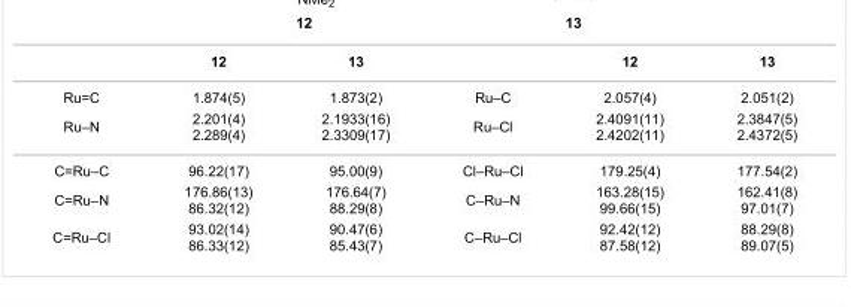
<table><thead><tr><td></td><td>12</td><td>13</td><td></td><td>12</td><td>13</td></tr></thead><tbody><tr><td>Ru=C</td><td>1.874(5)</td><td>1.873(2)</td><td>Ru–C</td><td>2.057(4)</td><td>2.051(2)</td></tr><tr><td>Ru–N</td><td>2.201(4) 2.289(4)</td><td>2.1933(16) 2.3309(17)</td><td>Ru–Cl</td><td>2.4091(11) 2.4202(11)</td><td>2.3847(5) 2.4372(5)</td></tr><tr><td>C=Ru–C</td><td>96.22(17)</td><td>95.00(9)</td><td>Cl–Ru–Cl</td><td>179.25(4)</td><td>177.54(2)</td></tr><tr><td>C=Ru–N</td><td>176.86(13) 86.32(12)</td><td>176.64(7) 88.29(8)</td><td>C–Ru–N</td><td>163.28(15) 99.66(15)</td><td>162.41(8) 97.01(7)</td></tr><tr><td>C=Ru–Cl</td><td>93.02(14) 86.33(12)</td><td>90.47(6) 85.43(7)</td><td>C–Ru–Cl</td><td>92.42(12) 87.58(12)</td><td>88.29(8) 89.07(5)</td></tr></tbody></table>